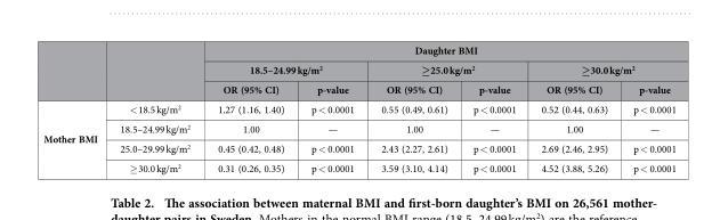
<table><thead><tr><td rowspan="3"></td><td rowspan="3"></td><td colspan="6">Daughter BMI</td></tr><tr><td colspan="2">18.5–24.99 kg/m<sup>2</sup></td><td colspan="2">≥25.0 kg/m<sup>2</sup></td><td colspan="2">≥30.0 kg/m<sup>2</sup></td></tr><tr><td>OR (95% CI)</td><td>p-value</td><td>OR (95% CI)</td><td>p-value</td><td>OR (95% CI)</td><td>p-value</td></tr></thead><tbody><tr><td rowspan="4">Mother BMI</td><td>&lt; 18.5 kg/m<sup>2</sup></td><td>1.27 (1.16, 1.40)</td><td>p &lt; 0.0001</td><td>0.55 (0.49, 0.61)</td><td>p &lt; 0.0001</td><td>0.52 (0.44, 0.63)</td><td>p &lt; 0.0001</td></tr><tr><td>18.5–24.99 kg/m<sup>2</sup></td><td>1.00</td><td>—</td><td>1.00</td><td>—</td><td>1.00</td><td>—</td></tr><tr><td>25.0–29.99 kg/m<sup>2</sup></td><td>0.45 (0.42, 0.48)</td><td>p &lt; 0.0001</td><td>2.43 (2.27, 2.61)</td><td>p &lt; 0.0001</td><td>2.69 (2.46, 2.95)</td><td>p &lt; 0.0001</td></tr><tr><td>≥ 30.0 kg/m<sup>2</sup></td><td>0.31 (0.26, 0.35)</td><td>p &lt; 0.0001</td><td>3.59 (3.10, 4.14)</td><td>p &lt; 0.0001</td><td>4.52 (3.88, 5.26)</td><td>p &lt; 0.0001</td></tr></tbody></table>